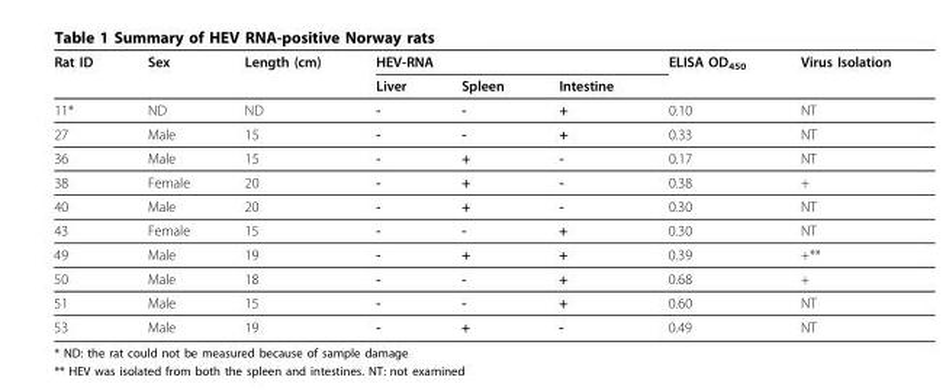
<table><thead><tr><td rowspan="2">Rat ID</td><td rowspan="2">Sex</td><td rowspan="2">Length (cm)</td><td colspan="3">HEV-RNA</td><td rowspan="2">ELISA OD<sub>450</sub></td><td rowspan="2">Virus Isolation</td></tr><tr><td>Liver</td><td>Spleen</td><td>Intestine</td></tr></thead><tbody><tr><td>11*</td><td>ND</td><td>ND</td><td>-</td><td>-</td><td>+</td><td>0.10</td><td>NT</td></tr><tr><td>27</td><td>Male</td><td>15</td><td>-</td><td>-</td><td>+</td><td>0.33</td><td>NT</td></tr><tr><td>36</td><td>Male</td><td>15</td><td>-</td><td>+</td><td>-</td><td>0.17</td><td>NT</td></tr><tr><td>38</td><td>Female</td><td>20</td><td>-</td><td>+</td><td>-</td><td>0.38</td><td>+</td></tr><tr><td>40</td><td>Male</td><td>20</td><td>-</td><td>+</td><td>-</td><td>0.30</td><td>NT</td></tr><tr><td>43</td><td>Female</td><td>15</td><td>-</td><td>-</td><td>+</td><td>0.30</td><td>NT</td></tr><tr><td>49</td><td>Male</td><td>19</td><td>-</td><td>+</td><td>+</td><td>0.39</td><td>+**</td></tr><tr><td>50</td><td>Male</td><td>18</td><td>-</td><td>-</td><td>+</td><td>0.68</td><td>+</td></tr><tr><td>51</td><td>Male</td><td>15</td><td>-</td><td>-</td><td>+</td><td>0.60</td><td>NT</td></tr><tr><td>53</td><td>Male</td><td>19</td><td>-</td><td>+</td><td>-</td><td>0.49</td><td>NT</td></tr></tbody></table>